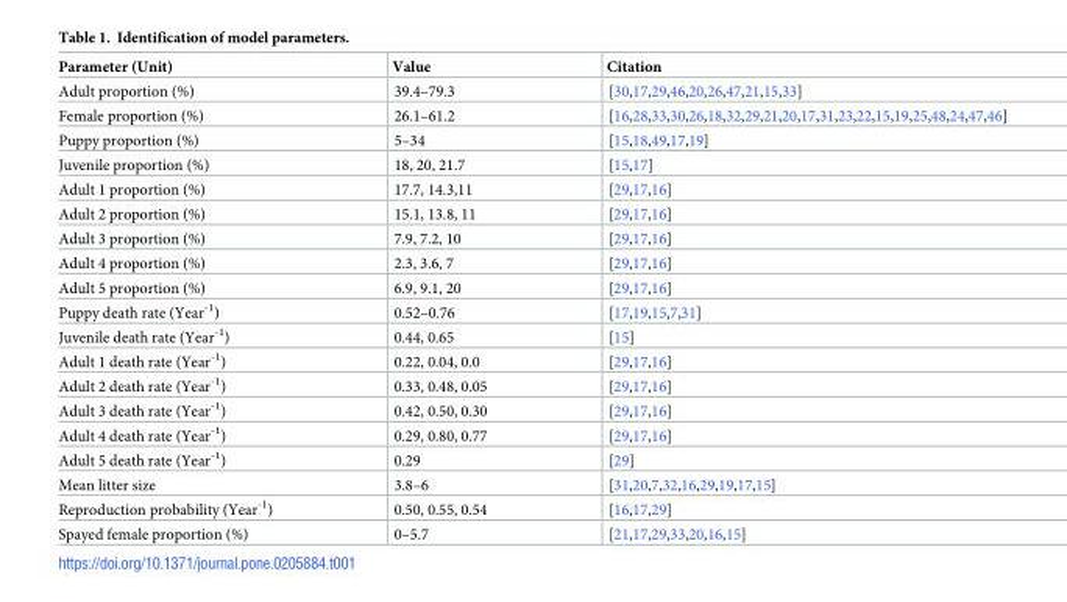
<table><thead><tr><td>Parameter (Unit)</td><td>Value</td><td>Citation</td></tr></thead><tbody><tr><td>Adult proportion (%)</td><td>39.4–79.3</td><td>[30,17,29,46,20,26,47,21,15,33]</td></tr><tr><td>Female proportion (%)</td><td>26.1–61.2</td><td>[16,28,33,30,26,18,32,29,21,20,17,31,23,22,15,19,25,48,24,47,46]</td></tr><tr><td>Puppy proportion (%)</td><td>5–34</td><td>[15,18,49,17,19]</td></tr><tr><td>Juvenile proportion (%)</td><td>18, 20, 21.7</td><td>[15,17]</td></tr><tr><td>Adult 1 proportion (%)</td><td>17.7, 14.3,11</td><td>[29,17,16]</td></tr><tr><td>Adult 2 proportion (%)</td><td>15.1, 13.8, 11</td><td>[29,17,16]</td></tr><tr><td>Adult 3 proportion (%)</td><td>7.9, 7.2, 10</td><td>[29,17,16]</td></tr><tr><td>Adult 4 proportion (%)</td><td>2.3, 3.6, 7</td><td>[29,17,16]</td></tr><tr><td>Adult 5 proportion (%)</td><td>6.9, 9.1, 20</td><td>[29,17,16]</td></tr><tr><td>Puppy death rate (Year<sup>-1</sup>)</td><td>0.52–0.76</td><td>[17,19,15,7,31]</td></tr><tr><td>Juvenile death rate (Year<sup>-1</sup>)</td><td>0.44, 0.65</td><td>[15]</td></tr><tr><td>Adult 1 death rate (Year<sup>-1</sup>)</td><td>0.22, 0.04, 0.0</td><td>[29,17,16]</td></tr><tr><td>Adult 2 death rate (Year<sup>-1</sup>)</td><td>0.33, 0.48, 0.05</td><td>[29,17,16]</td></tr><tr><td>Adult 3 death rate (Year<sup>-1</sup>)</td><td>0.42, 0.50, 0.30</td><td>[29,17,16]</td></tr><tr><td>Adult 4 death rate (Year<sup>-1</sup>)</td><td>0.29, 0.80, 0.77</td><td>[29,17,16]</td></tr><tr><td>Adult 5 death rate (Year<sup>-1</sup>)</td><td>0.29</td><td>[29]</td></tr><tr><td>Mean litter size</td><td>3.8–6</td><td>[31,20,7,32,16,29,19,17,15]</td></tr><tr><td>Reproduction probability (Year<sup>-1</sup>)</td><td>0.50, 0.55, 0.54</td><td>[16,17,29]</td></tr><tr><td>Spayed female proportion (%)</td><td>0–5.7</td><td>[21,17,29,33,20,16,15]</td></tr></tbody></table>